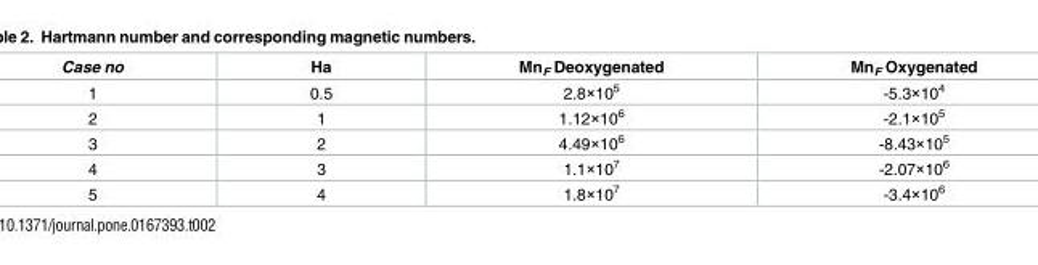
<table><thead><tr><td>Case no</td><td>Ha</td><td>Mn<sub>F</sub> Deoxygenated</td><td>Mn<sub>F</sub> Oxygenated</td></tr></thead><tbody><tr><td>1</td><td>0.5</td><td>2.8×10<sup>5</sup></td><td>-5.3×10<sup>4</sup></td></tr><tr><td>2</td><td>1</td><td>1.12×10<sup>6</sup></td><td>-2.1×10<sup>5</sup></td></tr><tr><td>3</td><td>2</td><td>4.49×10<sup>6</sup></td><td>-8.43×10<sup>5</sup></td></tr><tr><td>4</td><td>3</td><td>1.1×10<sup>7</sup></td><td>-2.07×10<sup>6</sup></td></tr><tr><td>5</td><td>4</td><td>1.8×10<sup>7</sup></td><td>-3.4×10<sup>6</sup></td></tr></tbody></table>